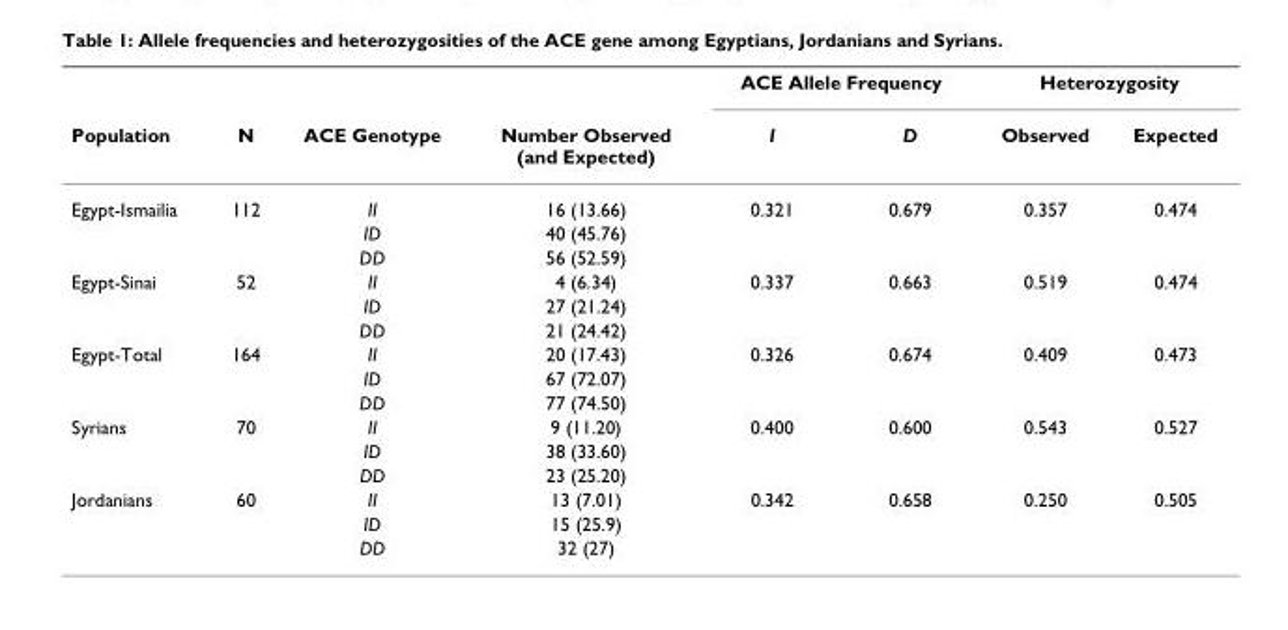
<table><thead><tr><td rowspan="2">Population</td><td rowspan="2">N</td><td rowspan="2">ACE Genotype</td><td rowspan="2">Number Observed (and Expected)</td><td colspan="2">ACE Allele Frequency</td><td colspan="2">Heterozygosity</td></tr><tr><td>I</td><td>D</td><td>Observed</td><td>Expected</td></tr></thead><tbody><tr><td rowspan="3">Egypt-Ismailia</td><td>112</td><td>II</td><td>16 (13.66)</td><td>0.321</td><td>0.679</td><td>0.357</td><td>0.474</td></tr><tr><td></td><td>ID</td><td>40 (45.76)</td><td></td><td></td><td></td><td></td></tr><tr><td></td><td>DD</td><td>56 (52.59)</td><td></td><td></td><td></td><td></td></tr><tr><td rowspan="3">Egypt-Sinai</td><td>52</td><td>II</td><td>4 (6.34)</td><td>0.337</td><td>0.663</td><td>0.519</td><td>0.474</td></tr><tr><td></td><td>ID</td><td>27 (21.24)</td><td></td><td></td><td></td><td></td></tr><tr><td></td><td>DD</td><td>21 (24.42)</td><td></td><td></td><td></td><td></td></tr><tr><td rowspan="3">Egypt-Total</td><td>164</td><td>II</td><td>20 (17.43)</td><td>0.326</td><td>0.674</td><td>0.409</td><td>0.473</td></tr><tr><td></td><td>ID</td><td>67 (72.07)</td><td></td><td></td><td></td><td></td></tr><tr><td></td><td>DD</td><td>77 (74.50)</td><td></td><td></td><td></td><td></td></tr><tr><td rowspan="3">Syrians</td><td>70</td><td>II</td><td>9 (11.20)</td><td>0.400</td><td>0.600</td><td>0.543</td><td>0.527</td></tr><tr><td></td><td>ID</td><td>38 (33.60)</td><td></td><td></td><td></td><td></td></tr><tr><td></td><td>DD</td><td>23 (25.20)</td><td></td><td></td><td></td><td></td></tr><tr><td rowspan="3">Jordanians</td><td>60</td><td>II</td><td>13 (7.01)</td><td>0.342</td><td>0.658</td><td>0.250</td><td>0.505</td></tr><tr><td></td><td>ID</td><td>15 (25.9)</td><td></td><td></td><td></td><td></td></tr><tr><td></td><td>DD</td><td>32 (27)</td><td></td><td></td><td></td><td></td></tr></tbody></table>